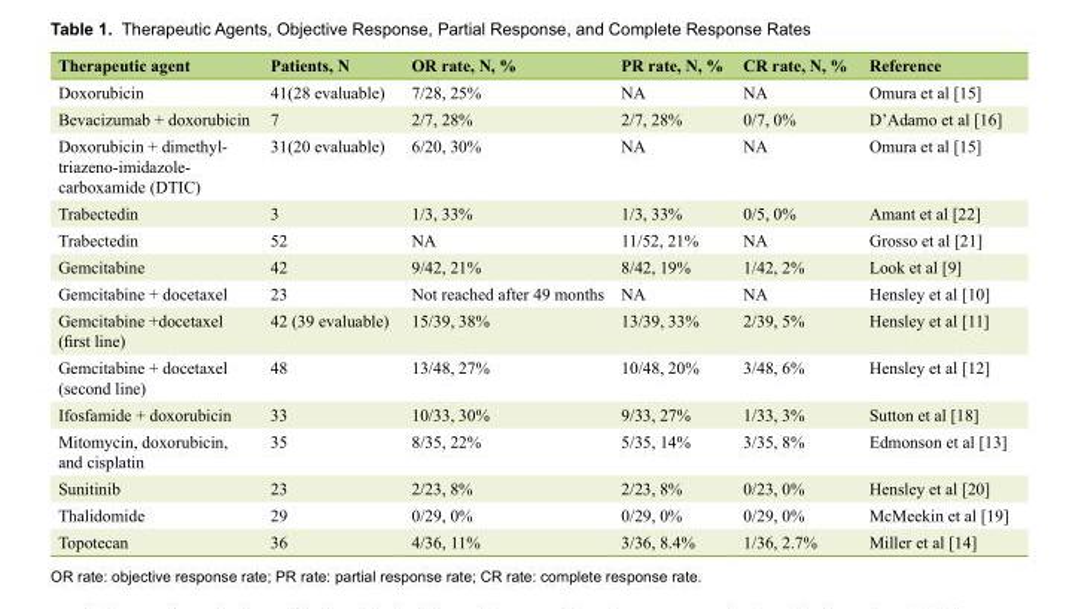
<table><thead><tr><td>Therapeutic agent</td><td>Patients, N</td><td>OR rate, N, %</td><td>PR rate, N, %</td><td>CR rate, N, %</td><td>Reference</td></tr></thead><tbody><tr><td>Doxorubicin</td><td>41(28 evaluable)</td><td>7/28, 25%</td><td>NA</td><td>NA</td><td>Omura et al [15]</td></tr><tr><td>Bevacizumab + doxorubicin</td><td>7</td><td>2/7, 28%</td><td>2/7, 28%</td><td>0/7, 0%</td><td>D’Adamo et al [16]</td></tr><tr><td>Doxorubicin + dimethyl- triazeno-imidazole- carboxamide (DTIC)</td><td>31(20 evaluable)</td><td>6/20, 30%</td><td>NA</td><td>NA</td><td>Omura et al [15]</td></tr><tr><td>Trabectedin</td><td>3</td><td>1/3, 33%</td><td>1/3, 33%</td><td>0/5, 0%</td><td>Amant et al [22]</td></tr><tr><td>Trabectedin</td><td>52</td><td>NA</td><td>11/52, 21%</td><td>NA</td><td>Grosso et al [21]</td></tr><tr><td>Gemcitabine</td><td>42</td><td>9/42, 21%</td><td>8/42, 19%</td><td>1/42, 2%</td><td>Look et al [9]</td></tr><tr><td>Gemcitabine + docetaxel</td><td>23</td><td>Not reached after 49 months</td><td>NA</td><td>NA</td><td>Hensley et al [10]</td></tr><tr><td>Gemcitabine +docetaxel (first line)</td><td>42 (39 evaluable)</td><td>15/39, 38%</td><td>13/39, 33%</td><td>2/39, 5%</td><td>Hensley et al [11]</td></tr><tr><td>Gemcitabine + docetaxel (second line)</td><td>48</td><td>13/48, 27%</td><td>10/48, 20%</td><td>3/48, 6%</td><td>Hensley et al [12]</td></tr><tr><td>Ifosfamide + doxorubicin</td><td>33</td><td>10/33, 30%</td><td>9/33, 27%</td><td>1/33, 3%</td><td>Sutton et al [18]</td></tr><tr><td>Mitomycin, doxorubicin, and cisplatin</td><td>35</td><td>8/35, 22%</td><td>5/35, 14%</td><td>3/35, 8%</td><td>Edmonson et al [13]</td></tr><tr><td>Sunitinib</td><td>23</td><td>2/23, 8%</td><td>2/23, 8%</td><td>0/23, 0%</td><td>Hensley et al [20]</td></tr><tr><td>Thalidomide</td><td>29</td><td>0/29, 0%</td><td>0/29, 0%</td><td>0/29, 0%</td><td>McMeekin et al [19]</td></tr><tr><td>Topotecan</td><td>36</td><td>4/36, 11%</td><td>3/36, 8.4%</td><td>1/36, 2.7%</td><td>Miller et al [14]</td></tr></tbody></table>